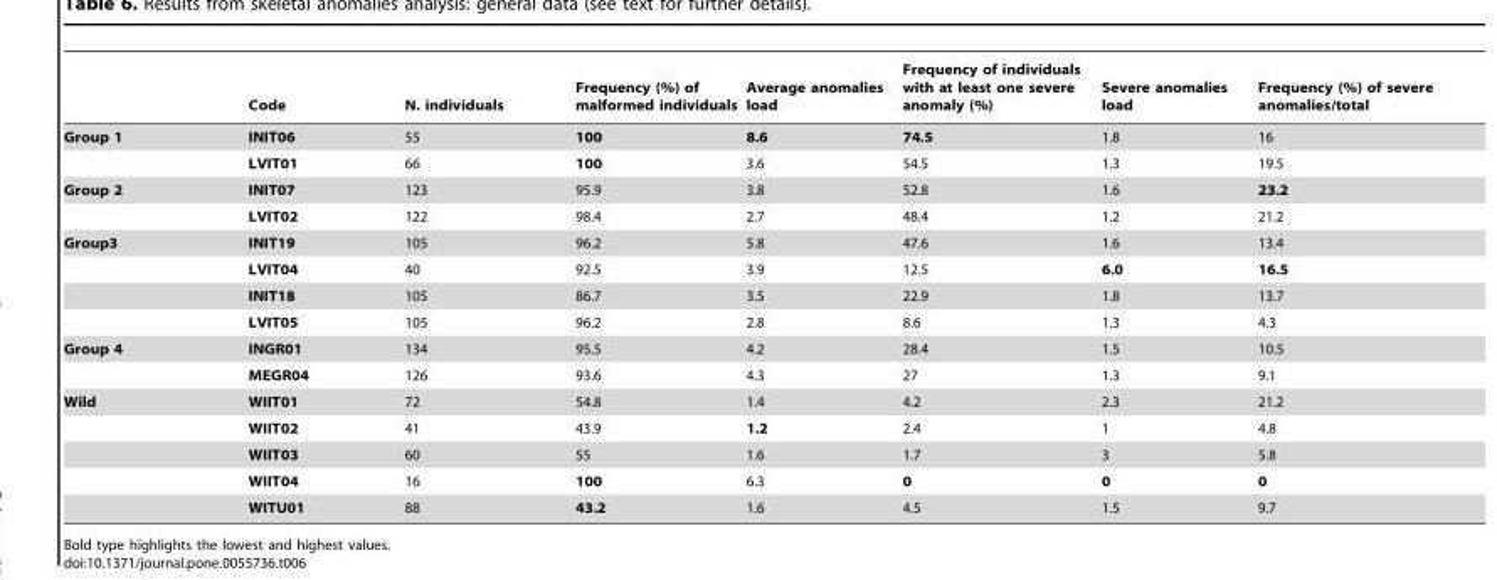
<table><thead><tr><td></td><td>Code</td><td>N. individuals</td><td>Frequency (%) of malformed individuals</td><td>Average anomalies load</td><td>Frequency of individuals with at least one severe anomaly (%)</td><td>Severe anomalies load</td><td>Frequency (%) of severe anomalies/total</td></tr></thead><tbody><tr><td rowspan="2">Group 1</td><td>INIT06</td><td>55</td><td>100</td><td>8.6</td><td>74.5</td><td>1.8</td><td>16</td></tr><tr><td>LVIT01</td><td>66</td><td>100</td><td>3.6</td><td>54.5</td><td>1.3</td><td>19.5</td></tr><tr><td rowspan="2">Group 2</td><td>INIT07</td><td>123</td><td>95.9</td><td>3.8</td><td>52.8</td><td>1.6</td><td>23.2</td></tr><tr><td>LVIT02</td><td>122</td><td>98.4</td><td>2.7</td><td>48.4</td><td>1.2</td><td>21.2</td></tr><tr><td rowspan="4">Group3</td><td>INIT19</td><td>105</td><td>96.2</td><td>5.8</td><td>47.6</td><td>1.6</td><td>13.4</td></tr><tr><td>LVIT04</td><td>40</td><td>92.5</td><td>3.9</td><td>12.5</td><td>6.0</td><td>16.5</td></tr><tr><td>INIT18</td><td>105</td><td>86.7</td><td>3.5</td><td>22.9</td><td>1.8</td><td>13.7</td></tr><tr><td>LVIT05</td><td>105</td><td>96.2</td><td>2.8</td><td>8.6</td><td>1.3</td><td>4.3</td></tr><tr><td rowspan="2">Group 4</td><td>INGR01</td><td>134</td><td>95.5</td><td>4.2</td><td>28.4</td><td>1.5</td><td>10.5</td></tr><tr><td>MEGR04</td><td>126</td><td>93.6</td><td>4.3</td><td>27</td><td>1.3</td><td>9.1</td></tr><tr><td rowspan="5">Wild</td><td>WIIT01</td><td>72</td><td>54.8</td><td>1.4</td><td>4.2</td><td>2.3</td><td>21.2</td></tr><tr><td>WIIT02</td><td>41</td><td>43.9</td><td>1.2</td><td>2.4</td><td>1</td><td>4.8</td></tr><tr><td>WIIT03</td><td>60</td><td>55</td><td>1.6</td><td>1.7</td><td>3</td><td>5.8</td></tr><tr><td>WIIT04</td><td>16</td><td>100</td><td>6.3</td><td>0</td><td>0</td><td>0</td></tr><tr><td>WITU01</td><td>88</td><td>43.2</td><td>1.6</td><td>4.5</td><td>1.5</td><td>9.7</td></tr></tbody></table>